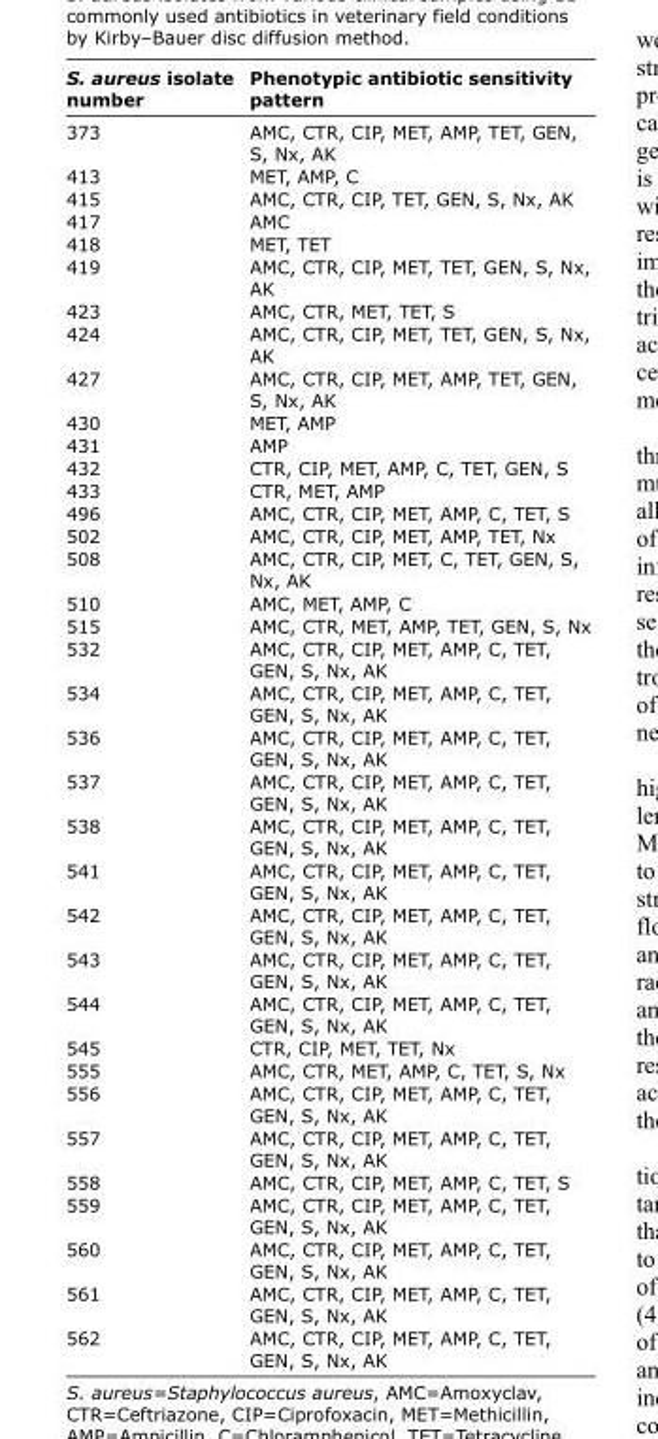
<table><thead><tr><td>S. aureus isolate number</td><td>Phenotypic antibiotic sensitivity pattern</td></tr></thead><tbody><tr><td>373</td><td>AMC, CTR, CIP, MET, AMP, TET, GEN, S, Nx, AK</td></tr><tr><td>413</td><td>MET, AMP, C</td></tr><tr><td>415</td><td>AMC, CTR, CIP, TET, GEN, S, Nx, AK</td></tr><tr><td>417</td><td>AMC</td></tr><tr><td>418</td><td>MET, TET</td></tr><tr><td>419</td><td>AMC, CTR, CIP, MET, TET, GEN, S, Nx, AK</td></tr><tr><td>423</td><td>AMC, CTR, MET, TET, S</td></tr><tr><td>424</td><td>AMC, CTR, CIP, MET, TET, GEN, S, Nx, AK</td></tr><tr><td>427</td><td>AMC, CTR, CIP, MET, AMP, TET, GEN, S, Nx, AK</td></tr><tr><td>430</td><td>MET, AMP</td></tr><tr><td>431</td><td>AMP</td></tr><tr><td>432</td><td>CTR, CIP, MET, AMP, C, TET, GEN, S</td></tr><tr><td>433</td><td>CTR, MET, AMP</td></tr><tr><td>496</td><td>AMC, CTR, CIP, MET, AMP, C, TET, S</td></tr><tr><td>502</td><td>AMC, CTR, CIP, MET, AMP, TET, Nx</td></tr><tr><td>508</td><td>AMC, CTR, CIP, MET, C, TET, GEN, S, Nx, AK</td></tr><tr><td>510</td><td>AMC, MET, AMP, C</td></tr><tr><td>515</td><td>AMC, CTR, MET, AMP, TET, GEN, S, Nx</td></tr><tr><td>532</td><td>AMC, CTR, CIP, MET, AMP, C, TET, GEN, S, Nx, AK</td></tr><tr><td>534</td><td>AMC, CTR, CIP, MET, AMP, C, TET, GEN, S, Nx, AK</td></tr><tr><td>536</td><td>AMC, CTR, CIP, MET, AMP, C, TET, GEN, S, Nx, AK</td></tr><tr><td>537</td><td>AMC, CTR, CIP, MET, AMP, C, TET, GEN, S, Nx, AK</td></tr><tr><td>538</td><td>AMC, CTR, CIP, MET, AMP, C, TET, GEN, S, Nx, AK</td></tr><tr><td>541</td><td>AMC, CTR, CIP, MET, AMP, C, TET, GEN, S, Nx, AK</td></tr><tr><td>542</td><td>AMC, CTR, CIP, MET, AMP, C, TET, GEN, S, Nx, AK</td></tr><tr><td>543</td><td>AMC, CTR, CIP, MET, AMP, C, TET, GEN, S, Nx, AK</td></tr><tr><td>544</td><td>AMC, CTR, CIP, MET, AMP, C, TET, GEN, S, Nx, AK</td></tr><tr><td>545</td><td>CTR, CIP, MET, TET, Nx</td></tr><tr><td>555</td><td>AMC, CTR, MET, AMP, C, TET, S, Nx</td></tr><tr><td>556</td><td>AMC, CTR, CIP, MET, AMP, C, TET, GEN, S, Nx, AK</td></tr><tr><td>557</td><td>AMC, CTR, CIP, MET, AMP, C, TET, GEN, S, Nx, AK</td></tr><tr><td>558</td><td>AMC, CTR, CIP, MET, AMP, C, TET, S</td></tr><tr><td>559</td><td>AMC, CTR, CIP, MET, AMP, C, TET, GEN, S, Nx, AK</td></tr><tr><td>560</td><td>AMC, CTR, CIP, MET, AMP, C, TET, GEN, S, Nx, AK</td></tr><tr><td>561</td><td>AMC, CTR, CIP, MET, AMP, C, TET, GEN, S, Nx, AK</td></tr><tr><td>562</td><td>AMC, CTR, CIP, MET, AMP, C, TET, GEN, S, Nx, AK</td></tr></tbody></table>